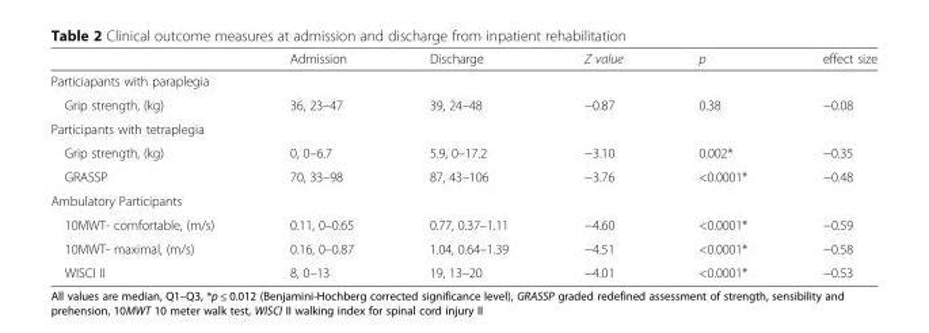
<table><thead><tr><td></td><td>Admission</td><td>Discharge</td><td>Z value</td><td>p</td><td>effect size</td></tr></thead><tbody><tr><td colspan="6">Particiapants with paraplegia</td></tr><tr><td>Grip strength, (kg)</td><td>36, 23–47</td><td>39, 24–48</td><td>−0.87</td><td>0.38</td><td>−0.08</td></tr><tr><td colspan="6">Participants with tetraplegia</td></tr><tr><td>Grip strength, (kg)</td><td>0, 0–6.7</td><td>5.9, 0–17.2</td><td>−3.10</td><td>0.002*</td><td>−0.35</td></tr><tr><td>GRASSP</td><td>70, 33–98</td><td>87, 43–106</td><td>−3.76</td><td>&lt;0.0001*</td><td>−0.48</td></tr><tr><td colspan="6">Ambulatory Participants</td></tr><tr><td>10MWT- comfortable, (m/s)</td><td>0.11, 0–0.65</td><td>0.77, 0.37–1.11</td><td>−4.60</td><td>&lt;0.0001*</td><td>−0.59</td></tr><tr><td>10MWT- maximal, (m/s)</td><td>0.16, 0–0.87</td><td>1.04, 0.64–1.39</td><td>−4.51</td><td>&lt;0.0001*</td><td>−0.58</td></tr><tr><td>WISCI II</td><td>8, 0–13</td><td>19, 13–20</td><td>−4.01</td><td>&lt;0.0001*</td><td>−0.53</td></tr></tbody></table>